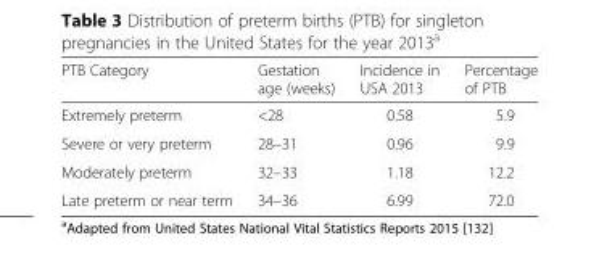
<table><thead><tr><td>PTB Category</td><td>Gestation age (weeks)</td><td>Incidence in USA 2013</td><td>Percentage of PTB</td></tr></thead><tbody><tr><td>Extremely preterm</td><td>&lt;28</td><td>0.58</td><td>5.9</td></tr><tr><td>Severe or very preterm</td><td>28–31</td><td>0.96</td><td>9.9</td></tr><tr><td>Moderately preterm</td><td>32–33</td><td>1.18</td><td>12.2</td></tr><tr><td>Late preterm or near term</td><td>34–36</td><td>6.99</td><td>72.0</td></tr></tbody></table>